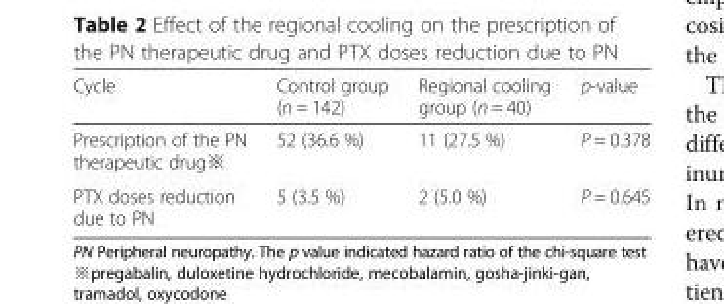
<table><thead><tr><td>Cycle</td><td>Control group (n = 142)</td><td>Regional cooling group (n = 40)</td><td>p-value</td></tr></thead><tbody><tr><td>Prescription of the PN therapeutic drug※</td><td>52 (36.6 %)</td><td>11 (27.5 %)</td><td>P = 0.378</td></tr><tr><td>PTX doses reduction due to PN</td><td>5 (3.5 %)</td><td>2 (5.0 %)</td><td>P = 0.645</td></tr></tbody></table>